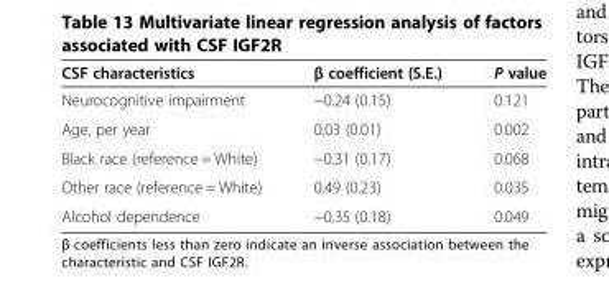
<table><thead><tr><td>CSF characteristics</td><td>β coefficient (S.E.)</td><td>P value</td></tr></thead><tbody><tr><td>Neurocognitive impairment</td><td>−0.24 (0.15)</td><td>0.121</td></tr><tr><td>Age, per year</td><td>0.03 (0.01)</td><td>0.002</td></tr><tr><td>Black race (reference = White)</td><td>−0.31 (0.17)</td><td>0.068</td></tr><tr><td>Other race (reference = White)</td><td>0.49 (0.23)</td><td>0.035</td></tr><tr><td>Alcohol dependence</td><td>−0.35 (0.18)</td><td>0.049</td></tr></tbody></table>